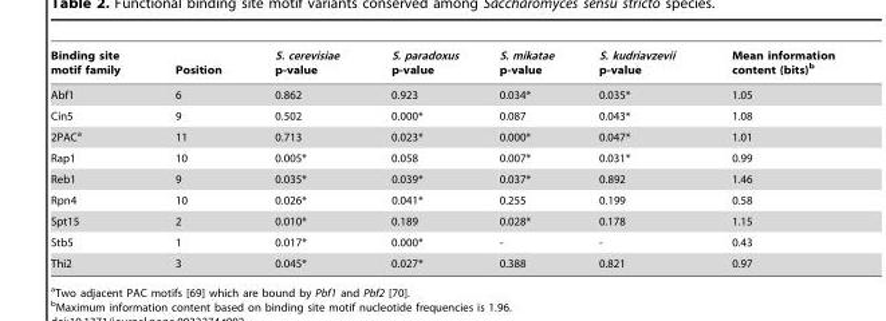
<table><thead><tr><td>Binding site motif family</td><td>Position</td><td>S. cerevisiae p-value</td><td>S. paradoxus p-value</td><td>S. mikatae p-value</td><td>S. kudriavzevii p-value</td><td>Mean information content (bits)<sup>b</sup></td></tr></thead><tbody><tr><td>Abf1</td><td>6</td><td>0.862</td><td>0.923</td><td>0.034*</td><td>0.035*</td><td>1.05</td></tr><tr><td>Cin5</td><td>9</td><td>0.502</td><td>0.000*</td><td>0.087</td><td>0.043*</td><td>1.08</td></tr><tr><td>2PAC<sup>a</sup></td><td>11</td><td>0.713</td><td>0.023*</td><td>0.000*</td><td>0.047*</td><td>1.01</td></tr><tr><td>Rap1</td><td>10</td><td>0.005*</td><td>0.058</td><td>0.007*</td><td>0.031*</td><td>0.99</td></tr><tr><td>Reb1</td><td>9</td><td>0.035*</td><td>0.039*</td><td>0.037*</td><td>0.892</td><td>1.46</td></tr><tr><td>Rpn4</td><td>10</td><td>0.026*</td><td>0.041*</td><td>0.255</td><td>0.199</td><td>0.58</td></tr><tr><td>Spt15</td><td>2</td><td>0.010*</td><td>0.189</td><td>0.028*</td><td>0.178</td><td>1.15</td></tr><tr><td>Stb5</td><td>1</td><td>0.017*</td><td>0.000*</td><td>-</td><td>-</td><td>0.43</td></tr><tr><td>Thi2</td><td>3</td><td>0.045*</td><td>0.027*</td><td>0.388</td><td>0.821</td><td>0.97</td></tr></tbody></table>